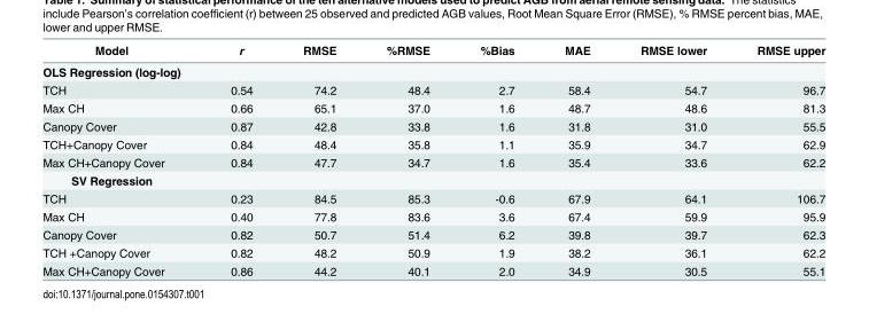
<table><thead><tr><td>Model</td><td>r</td><td>RMSE</td><td>%RMSE</td><td>%Bias</td><td>MAE</td><td>RMSE lower</td><td>RMSE upper</td></tr></thead><tbody><tr><td colspan="8">OLS Regression (log-log)</td></tr><tr><td>TCH</td><td>0.54</td><td>74.2</td><td>48.4</td><td>2.7</td><td>58.4</td><td>54.7</td><td>96.7</td></tr><tr><td>Max CH</td><td>0.66</td><td>65.1</td><td>37.0</td><td>1.6</td><td>48.7</td><td>48.6</td><td>81.3</td></tr><tr><td>Canopy Cover</td><td>0.87</td><td>42.8</td><td>33.8</td><td>1.6</td><td>31.8</td><td>31.0</td><td>55.5</td></tr><tr><td>TCH+Canopy Cover</td><td>0.84</td><td>48.4</td><td>35.8</td><td>1.1</td><td>35.9</td><td>34.7</td><td>62.9</td></tr><tr><td>Max CH+Canopy Cover</td><td>0.84</td><td>47.7</td><td>34.7</td><td>1.6</td><td>35.4</td><td>33.6</td><td>62.2</td></tr><tr><td colspan="8">SV Regression</td></tr><tr><td>TCH</td><td>0.23</td><td>84.5</td><td>85.3</td><td>-0.6</td><td>67.9</td><td>64.1</td><td>106.7</td></tr><tr><td>Max CH</td><td>0.40</td><td>77.8</td><td>83.6</td><td>3.6</td><td>67.4</td><td>59.9</td><td>95.9</td></tr><tr><td>Canopy Cover</td><td>0.82</td><td>50.7</td><td>51.4</td><td>6.2</td><td>39.8</td><td>39.7</td><td>62.3</td></tr><tr><td>TCH +Canopy Cover</td><td>0.82</td><td>48.2</td><td>50.9</td><td>1.9</td><td>38.2</td><td>36.1</td><td>62.2</td></tr><tr><td>Max CH+Canopy Cover</td><td>0.86</td><td>44.2</td><td>40.1</td><td>2.0</td><td>34.9</td><td>30.5</td><td>55.1</td></tr></tbody></table>